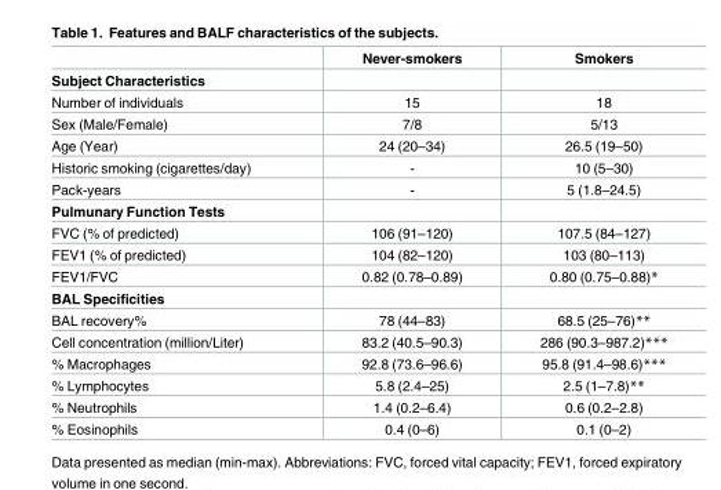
<table><thead><tr><td></td><td>Never-smokers</td><td>Smokers</td></tr></thead><tbody><tr><td colspan="3">Subject Characteristics</td></tr><tr><td>Number of individuals</td><td>15</td><td>18</td></tr><tr><td>Sex (Male/Female)</td><td>7/8</td><td>5/13</td></tr><tr><td>Age (Year)</td><td>24 (20–34)</td><td>26.5 (19–50)</td></tr><tr><td>Historic smoking (cigarettes/day)</td><td>-</td><td>10 (5–30)</td></tr><tr><td>Pack-years</td><td>-</td><td>5 (1.8–24.5)</td></tr><tr><td colspan="3">Pulmunary Function Tests</td></tr><tr><td>FVC (% of predicted)</td><td>106 (91–120)</td><td>107.5 (84–127)</td></tr><tr><td>FEV1 (% of predicted)</td><td>104 (82–120)</td><td>103 (80–113)</td></tr><tr><td>FEV1/FVC</td><td>0.82 (0.78–0.89)</td><td>0.80 (0.75–0.88)*</td></tr><tr><td colspan="3">BAL Specificities</td></tr><tr><td>BAL recovery%</td><td>78 (44–83)</td><td>68.5 (25–76)**</td></tr><tr><td>Cell concentration (million/Liter)</td><td>83.2 (40.5–90.3)</td><td>286 (90.3–987.2)***</td></tr><tr><td>% Macrophages</td><td>92.8 (73.6–96.6)</td><td>95.8 (91.4–98.6)***</td></tr><tr><td>% Lymphocytes</td><td>5.8 (2.4–25)</td><td>2.5 (1–7.8)**</td></tr><tr><td>% Neutrophils</td><td>1.4 (0.2–6.4)</td><td>0.6 (0.2–2.8)</td></tr><tr><td>% Eosinophils</td><td>0.4 (0–6)</td><td>0.1 (0–2)</td></tr></tbody></table>